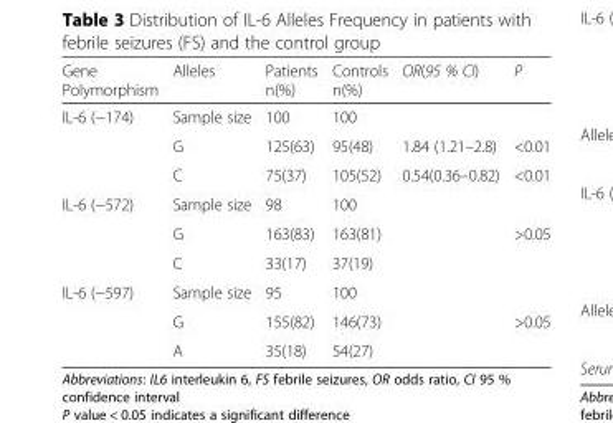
<table><thead><tr><td>Gene Polymorphism</td><td>Alleles</td><td>Patients n(%)</td><td>Controls n(%)</td><td>OR(95 % CI)</td><td>P</td></tr></thead><tbody><tr><td rowspan="3">IL-6 (−174)</td><td>Sample size</td><td>100</td><td>100</td><td></td><td></td></tr><tr><td>G</td><td>125(63)</td><td>95(48)</td><td>1.84 (1.21–2.8)</td><td>&lt;0.01</td></tr><tr><td>C</td><td>75(37)</td><td>105(52)</td><td>0.54(0.36–0.82)</td><td>&lt;0.01</td></tr><tr><td rowspan="3">IL-6 (−572)</td><td>Sample size</td><td>98</td><td>100</td><td></td><td></td></tr><tr><td>G</td><td>163(83)</td><td>163(81)</td><td></td><td>&gt;0.05</td></tr><tr><td>C</td><td>33(17)</td><td>37(19)</td><td></td><td></td></tr><tr><td rowspan="3">IL-6 (−597)</td><td>Sample size</td><td>95</td><td>100</td><td></td><td></td></tr><tr><td>G</td><td>155(82)</td><td>146(73)</td><td></td><td>&gt;0.05</td></tr><tr><td>A</td><td>35(18)</td><td>54(27)</td><td></td><td></td></tr></tbody></table>